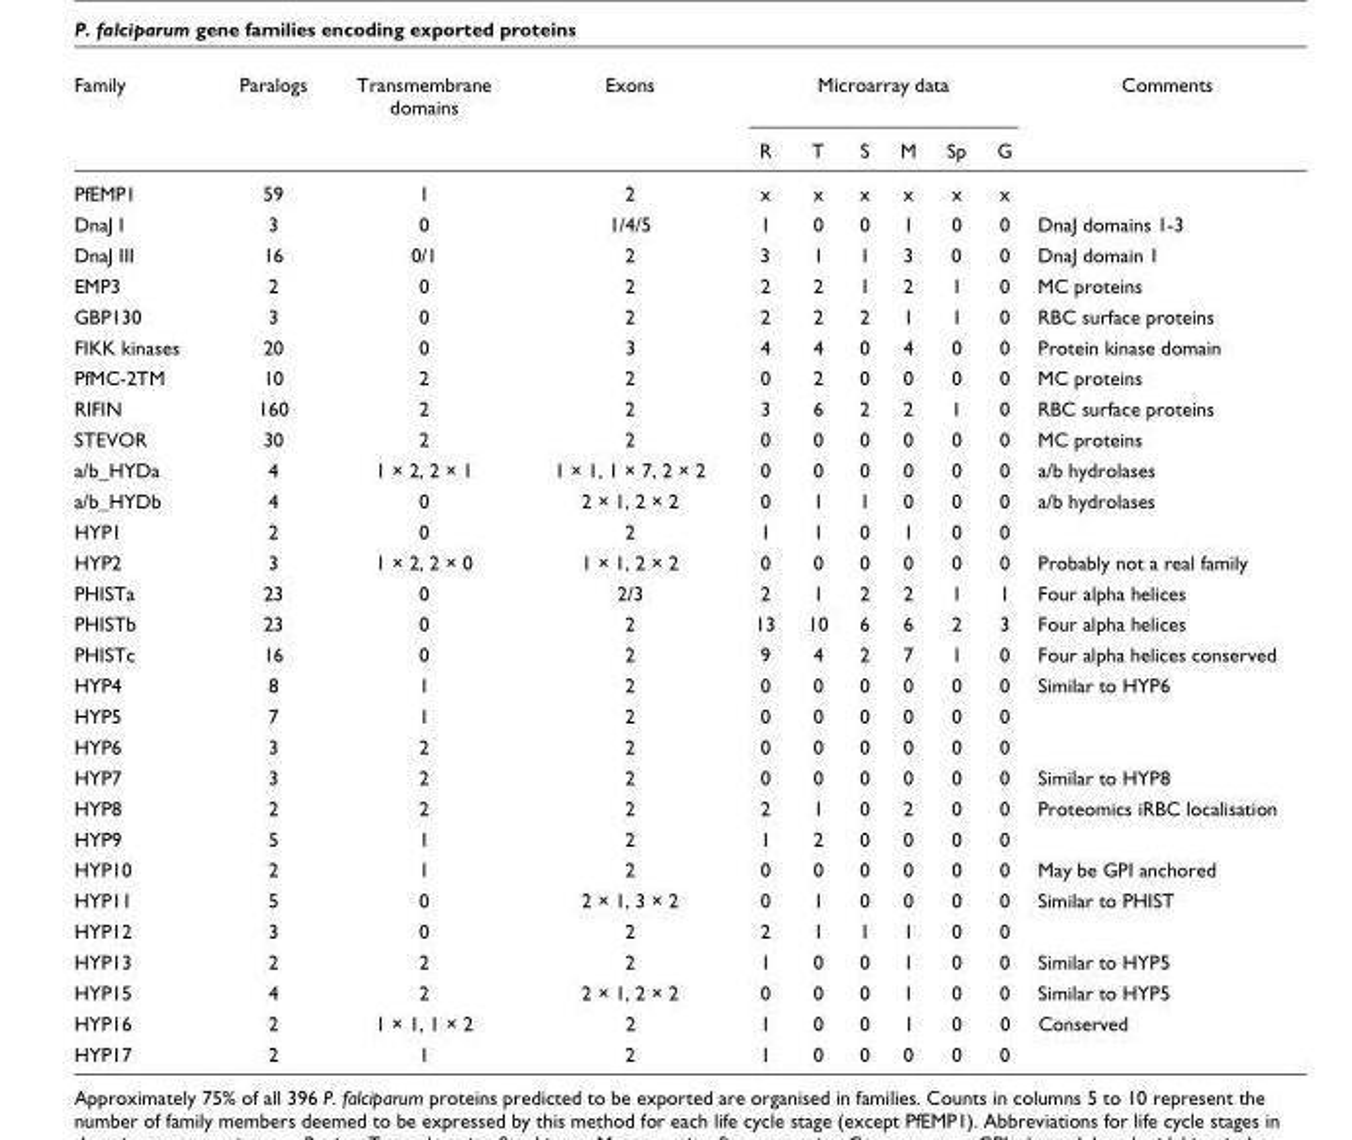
<table><thead><tr><td rowspan="2">Family</td><td rowspan="2">Paralogs</td><td rowspan="2">Transmembrane domains</td><td rowspan="2">Exons</td><td colspan="6">Microarray data</td><td rowspan="2">Comments</td></tr><tr><td>R</td><td>T</td><td>S</td><td>M</td><td>Sp</td><td>G</td></tr></thead><tbody><tr><td>PfEMP1</td><td>59</td><td>1</td><td>2</td><td>x</td><td>x</td><td>x</td><td>x</td><td>x</td><td>x</td><td></td></tr><tr><td>DnaJ I</td><td>3</td><td>0</td><td>1/4/5</td><td>1</td><td>0</td><td>0</td><td>1</td><td>0</td><td>0</td><td>DnaJ domains 1-3</td></tr><tr><td>DnaJ III</td><td>16</td><td>0/1</td><td>2</td><td>3</td><td>1</td><td>1</td><td>3</td><td>0</td><td>0</td><td>DnaJ domain 1</td></tr><tr><td>EMP3</td><td>2</td><td>0</td><td>2</td><td>2</td><td>2</td><td>1</td><td>2</td><td>1</td><td>0</td><td>MC proteins</td></tr><tr><td>GBP130</td><td>3</td><td>0</td><td>2</td><td>2</td><td>2</td><td>2</td><td>1</td><td>1</td><td>0</td><td>RBC surface proteins</td></tr><tr><td>FIKK kinases</td><td>20</td><td>0</td><td>3</td><td>4</td><td>4</td><td>0</td><td>4</td><td>0</td><td>0</td><td>Protein kinase domain</td></tr><tr><td>PfMC-2TM</td><td>10</td><td>2</td><td>2</td><td>0</td><td>2</td><td>0</td><td>0</td><td>0</td><td>0</td><td>MC proteins</td></tr><tr><td>RIFIN</td><td>160</td><td>2</td><td>2</td><td>3</td><td>6</td><td>2</td><td>2</td><td>1</td><td>0</td><td>RBC surface proteins</td></tr><tr><td>STEVOR</td><td>30</td><td>2</td><td>2</td><td>0</td><td>0</td><td>0</td><td>0</td><td>0</td><td>0</td><td>MC proteins</td></tr><tr><td>a/b_HYDa</td><td>4</td><td>1 × 2, 2 × 1</td><td>1 × 1, 1 × 7, 2 × 2</td><td>0</td><td>0</td><td>0</td><td>0</td><td>0</td><td>0</td><td>a/b hydrolases</td></tr><tr><td>a/b_HYDb</td><td>4</td><td>0</td><td>2 × 1, 2 × 2</td><td>0</td><td>1</td><td>1</td><td>0</td><td>0</td><td>0</td><td>a/b hydrolases</td></tr><tr><td>HYP1</td><td>2</td><td>0</td><td>2</td><td>1</td><td>1</td><td>0</td><td>1</td><td>0</td><td>0</td><td></td></tr><tr><td>HYP2</td><td>3</td><td>1 × 2, 2 × 0</td><td>1 × 1, 2 × 2</td><td>0</td><td>0</td><td>0</td><td>0</td><td>0</td><td>0</td><td>Probably not a real family</td></tr><tr><td>PHISTa</td><td>23</td><td>0</td><td>2/3</td><td>2</td><td>1</td><td>2</td><td>2</td><td>1</td><td>1</td><td>Four alpha helices</td></tr><tr><td>PHISTb</td><td>23</td><td>0</td><td>2</td><td>13</td><td>10</td><td>6</td><td>6</td><td>2</td><td>3</td><td>Four alpha helices</td></tr><tr><td>PHISTc</td><td>16</td><td>0</td><td>2</td><td>9</td><td>4</td><td>2</td><td>7</td><td>1</td><td>0</td><td>Four alpha helices conserved</td></tr><tr><td>HYP4</td><td>8</td><td>1</td><td>2</td><td>0</td><td>0</td><td>0</td><td>0</td><td>0</td><td>0</td><td>Similar to HYP6</td></tr><tr><td>HYP5</td><td>7</td><td>1</td><td>2</td><td>0</td><td>0</td><td>0</td><td>0</td><td>0</td><td>0</td><td></td></tr><tr><td>HYP6</td><td>3</td><td>2</td><td>2</td><td>0</td><td>0</td><td>0</td><td>0</td><td>0</td><td>0</td><td></td></tr><tr><td>HYP7</td><td>3</td><td>2</td><td>2</td><td>0</td><td>0</td><td>0</td><td>0</td><td>0</td><td>0</td><td>Similar to HYP8</td></tr><tr><td>HYP8</td><td>2</td><td>2</td><td>2</td><td>2</td><td>1</td><td>0</td><td>2</td><td>0</td><td>0</td><td>Proteomics iRBC localisation</td></tr><tr><td>HYP9</td><td>5</td><td>1</td><td>2</td><td>1</td><td>2</td><td>0</td><td>0</td><td>0</td><td>0</td><td></td></tr><tr><td>HYP10</td><td>2</td><td>1</td><td>2</td><td>0</td><td>0</td><td>0</td><td>0</td><td>0</td><td>0</td><td>May be GPI anchored</td></tr><tr><td>HYP11</td><td>5</td><td>0</td><td>2 × 1, 3 × 2</td><td>0</td><td>1</td><td>0</td><td>0</td><td>0</td><td>0</td><td>Similar to PHIST</td></tr><tr><td>HYP12</td><td>3</td><td>0</td><td>2</td><td>2</td><td>1</td><td>1</td><td>1</td><td>0</td><td>0</td><td></td></tr><tr><td>HYP13</td><td>2</td><td>2</td><td>2</td><td>1</td><td>0</td><td>0</td><td>1</td><td>0</td><td>0</td><td>Similar to HYP5</td></tr><tr><td>HYP15</td><td>4</td><td>2</td><td>2 × 1, 2 × 2</td><td>0</td><td>0</td><td>0</td><td>1</td><td>0</td><td>0</td><td>Similar to HYP5</td></tr><tr><td>HYP16</td><td>2</td><td>1 × 1, 1 × 2</td><td>2</td><td>1</td><td>0</td><td>0</td><td>1</td><td>0</td><td>0</td><td>Conserved</td></tr><tr><td>HYP17</td><td>2</td><td>1</td><td>2</td><td>1</td><td>0</td><td>0</td><td>0</td><td>0</td><td>0</td><td></td></tr></tbody></table>